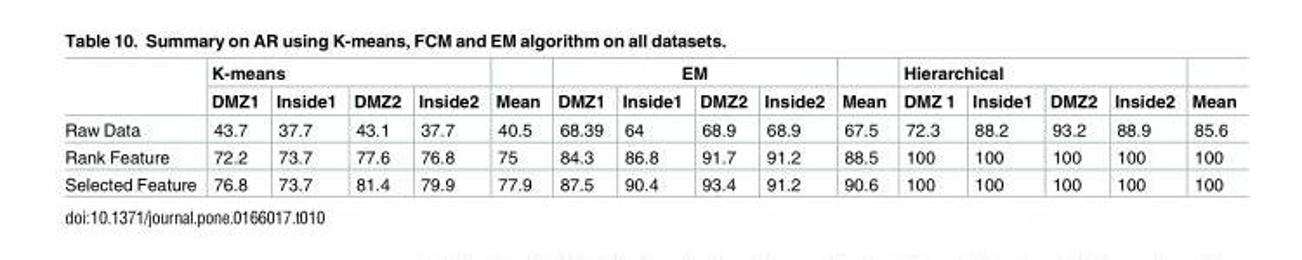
<table><thead><tr><td rowspan="2"></td><td colspan="4">K-means</td><td rowspan="2">Mean</td><td colspan="4">EM</td><td rowspan="2">Mean</td><td colspan="4">Hierarchical</td><td rowspan="2">Mean</td></tr><tr><td>DMZ1</td><td>Inside1</td><td>DMZ2</td><td>Inside2</td><td>DMZ1</td><td>Inside1</td><td>DMZ2</td><td>Inside2</td><td>DMZ 1</td><td>Inside1</td><td>DMZ2</td><td>Inside2</td></tr></thead><tbody><tr><td>Raw Data</td><td>43.7</td><td>37.7</td><td>43.1</td><td>37.7</td><td>40.5</td><td>68.39</td><td>64</td><td>68.9</td><td>68.9</td><td>67.5</td><td>72.3</td><td>88.2</td><td>93.2</td><td>88.9</td><td>85.6</td></tr><tr><td>Rank Feature</td><td>72.2</td><td>73.7</td><td>77.6</td><td>76.8</td><td>75</td><td>84.3</td><td>86.8</td><td>91.7</td><td>91.2</td><td>88.5</td><td>100</td><td>100</td><td>100</td><td>100</td><td>100</td></tr><tr><td>Selected Feature</td><td>76.8</td><td>73.7</td><td>81.4</td><td>79.9</td><td>77.9</td><td>87.5</td><td>90.4</td><td>93.4</td><td>91.2</td><td>90.6</td><td>100</td><td>100</td><td>100</td><td>100</td><td>100</td></tr></tbody></table>